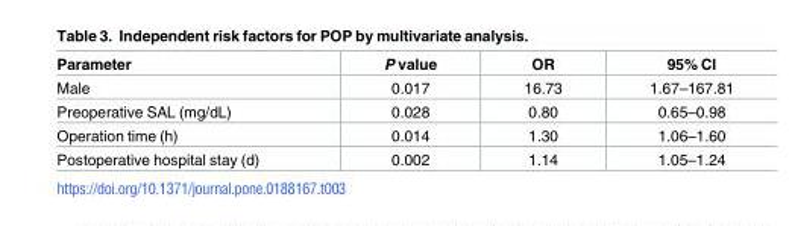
<table><thead><tr><td>Parameter</td><td>P value</td><td>OR</td><td>95% CI</td></tr></thead><tbody><tr><td>Male</td><td>0.017</td><td>16.73</td><td>1.67–167.81</td></tr><tr><td>Preoperative SAL (mg/dL)</td><td>0.028</td><td>0.80</td><td>0.65–0.98</td></tr><tr><td>Operation time (h)</td><td>0.014</td><td>1.30</td><td>1.06–1.60</td></tr><tr><td>Postoperative hospital stay (d)</td><td>0.002</td><td>1.14</td><td>1.05–1.24</td></tr></tbody></table>